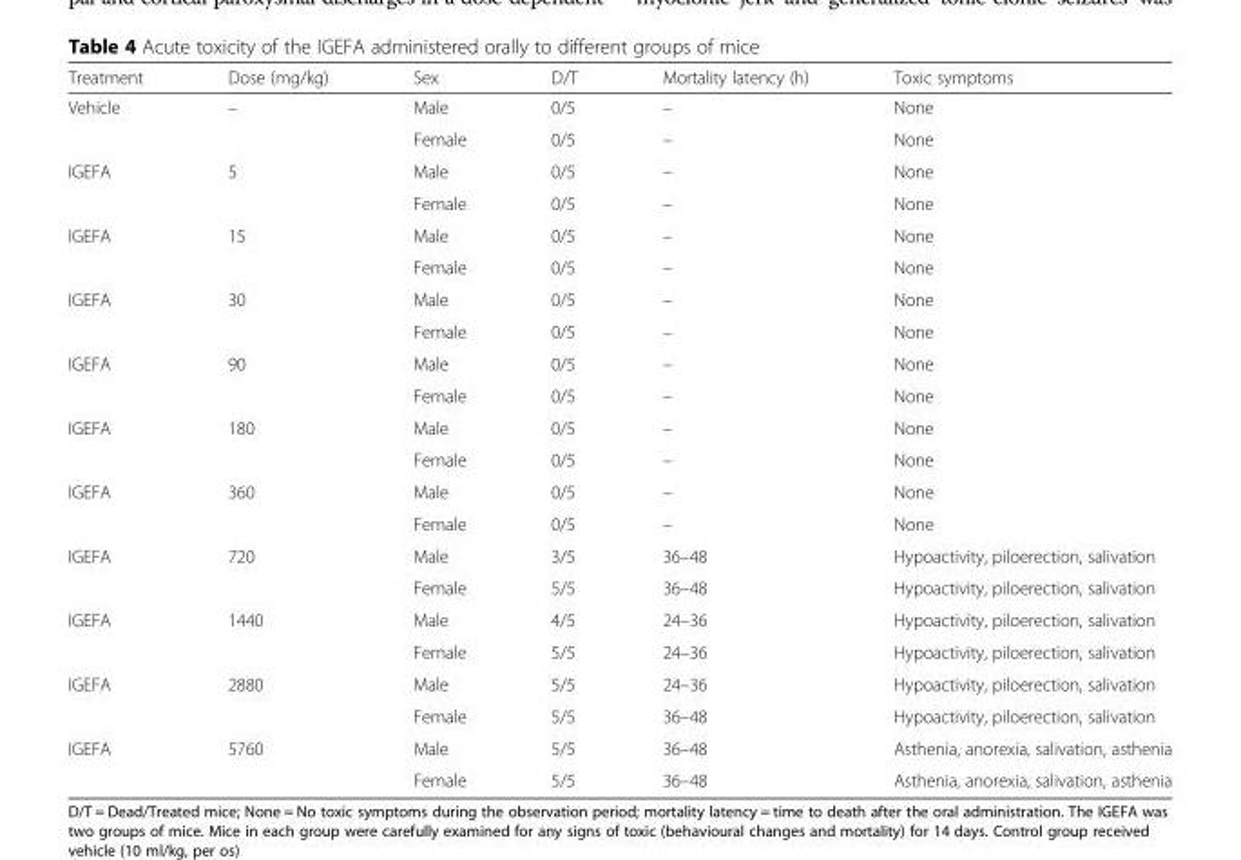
<table><thead><tr><td>Treatment</td><td>Dose (mg/kg)</td><td>Sex</td><td>D/T</td><td>Mortality latency (h)</td><td>Toxic symptoms</td></tr></thead><tbody><tr><td rowspan="2">Vehicle</td><td rowspan="2">–</td><td>Male</td><td>0/5</td><td>–</td><td>None</td></tr><tr><td>Female</td><td>0/5</td><td>–</td><td>None</td></tr><tr><td rowspan="2">IGEFA</td><td rowspan="2">5</td><td>Male</td><td>0/5</td><td>–</td><td>None</td></tr><tr><td>Female</td><td>0/5</td><td>–</td><td>None</td></tr><tr><td rowspan="2">IGEFA</td><td rowspan="2">15</td><td>Male</td><td>0/5</td><td>–</td><td>None</td></tr><tr><td>Female</td><td>0/5</td><td>–</td><td>None</td></tr><tr><td rowspan="2">IGEFA</td><td rowspan="2">30</td><td>Male</td><td>0/5</td><td>–</td><td>None</td></tr><tr><td>Female</td><td>0/5</td><td>–</td><td>None</td></tr><tr><td rowspan="2">IGEFA</td><td rowspan="2">90</td><td>Male</td><td>0/5</td><td>–</td><td>None</td></tr><tr><td>Female</td><td>0/5</td><td>–</td><td>None</td></tr><tr><td rowspan="2">IGEFA</td><td rowspan="2">180</td><td>Male</td><td>0/5</td><td>–</td><td>None</td></tr><tr><td>Female</td><td>0/5</td><td>–</td><td>None</td></tr><tr><td rowspan="2">IGEFA</td><td rowspan="2">360</td><td>Male</td><td>0/5</td><td>–</td><td>None</td></tr><tr><td>Female</td><td>0/5</td><td>–</td><td>None</td></tr><tr><td rowspan="2">IGEFA</td><td rowspan="2">720</td><td>Male</td><td>3/5</td><td>36–48</td><td>Hypoactivity, piloerection, salivation</td></tr><tr><td>Female</td><td>5/5</td><td>36–48</td><td>Hypoactivity, piloerection, salivation</td></tr><tr><td rowspan="2">IGEFA</td><td rowspan="2">1440</td><td>Male</td><td>4/5</td><td>24–36</td><td>Hypoactivity, piloerection, salivation</td></tr><tr><td>Female</td><td>5/5</td><td>24–36</td><td>Hypoactivity, piloerection, salivation</td></tr><tr><td rowspan="2">IGEFA</td><td rowspan="2">2880</td><td>Male</td><td>5/5</td><td>24–36</td><td>Hypoactivity, piloerection, salivation</td></tr><tr><td>Female</td><td>5/5</td><td>36–48</td><td>Hypoactivity, piloerection, salivation</td></tr><tr><td rowspan="2">IGEFA</td><td rowspan="2">5760</td><td>Male</td><td>5/5</td><td>36–48</td><td>Asthenia, anorexia, salivation, asthenia</td></tr><tr><td>Female</td><td>5/5</td><td>36–48</td><td>Asthenia, anorexia, salivation, asthenia</td></tr></tbody></table>